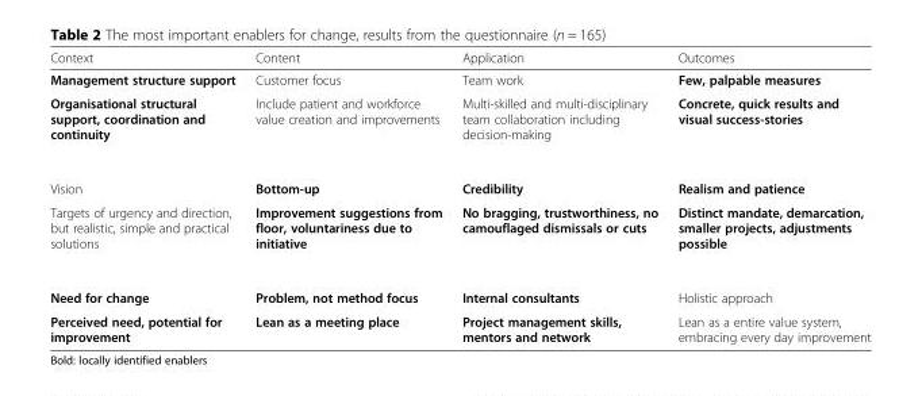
<table><thead><tr><td>Context</td><td>Content</td><td>Application</td><td>Outcomes</td></tr></thead><tbody><tr><td>Management structure support</td><td>Customer focus</td><td>Team work</td><td>Few, palpable measures</td></tr><tr><td>Organisational structural support, coordination and continuity</td><td>Include patient and workforce value creation and improvements</td><td>Multi-skilled and multi-disciplinary team collaboration including decision-making</td><td>Concrete, quick results and visual success-stories</td></tr><tr><td>Vision</td><td>Bottom-up</td><td>Credibility</td><td>Realism and patience</td></tr><tr><td>Targets of urgency and direction, but realistic, simple and practical solutions</td><td>Improvement suggestions from floor, voluntariness due to initiative</td><td>No bragging, trustworthiness, no camouflaged dismissals or cuts</td><td>Distinct mandate, demarcation, smaller projects, adjustments possible</td></tr><tr><td>Need for change</td><td>Problem, not method focus</td><td>Internal consultants</td><td>Holistic approach</td></tr><tr><td>Perceived need, potential for improvement</td><td>Lean as a meeting place</td><td>Project management skills, mentors and network</td><td>Lean as a entire value system, embracing every day improvement</td></tr></tbody></table>